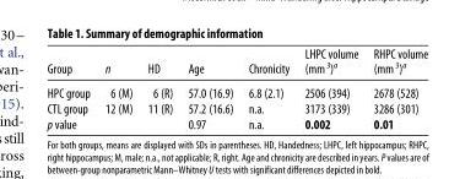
<table><thead><tr><td>Group</td><td>n</td><td>HD</td><td>Age</td><td>Chronicity</td><td>LHPC volume (mm <sup>3</sup>)<sup>a</sup></td><td>RHPC volume (mm <sup>3</sup>)<sup>a</sup></td></tr></thead><tbody><tr><td>HPC group</td><td>6 (M)</td><td>6 (R)</td><td>57.0 (16.9)</td><td>6.8 (2.1)</td><td>2506 (394)</td><td>2678 (528)</td></tr><tr><td>CTL group</td><td>12 (M)</td><td>11 (R)</td><td>57.2 (16.6)</td><td>n.a.</td><td>3173 (339)</td><td>3286 (301)</td></tr><tr><td>p value</td><td></td><td></td><td>0.97</td><td>n.a.</td><td>0.002</td><td>0.01</td></tr></tbody></table>